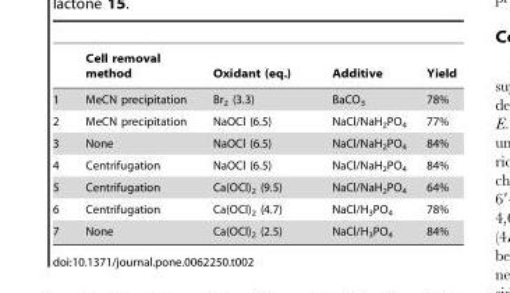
<table><thead><tr><td></td><td>Cell removal method</td><td>Oxidant (eq.)</td><td>Additive</td><td>Yield</td></tr></thead><tbody><tr><td>1</td><td>MeCN precipitation</td><td>Br<sub>2</sub> (3.3)</td><td>BaCO<sub>3</sub></td><td>78%</td></tr><tr><td>2</td><td>MeCN precipitation</td><td>NaOCl (6.5)</td><td>NaCl/NaH<sub>2</sub>PO<sub>4</sub></td><td>77%</td></tr><tr><td>3</td><td>None</td><td>NaOCl (6.5)</td><td>NaCl/NaH<sub>2</sub>PO<sub>4</sub></td><td>84%</td></tr><tr><td>4</td><td>Centrifugation</td><td>NaOCl (6.5)</td><td>NaCl/NaH<sub>2</sub>PO<sub>4</sub></td><td>84%</td></tr><tr><td>5</td><td>Centrifugation</td><td>Ca(OCl)<sub>2</sub> (9.5)</td><td>NaCl/NaH<sub>2</sub>PO<sub>4</sub></td><td>64%</td></tr><tr><td>6</td><td>Centrifugation</td><td>Ca(OCl)<sub>2</sub> (4.7)</td><td>NaCl/H<sub>3</sub>PO<sub>4</sub></td><td>78%</td></tr><tr><td>7</td><td>None</td><td>Ca(OCl)<sub>2</sub> (2.5)</td><td>NaCl/H<sub>3</sub>PO<sub>4</sub></td><td>84%</td></tr></tbody></table>